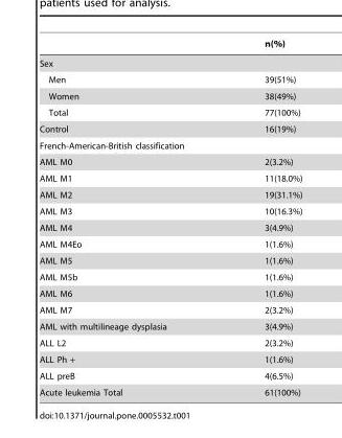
<table><thead><tr><td></td><td>n(%)</td></tr></thead><tbody><tr><td colspan="2">Sex</td></tr><tr><td>Men</td><td>39(51%)</td></tr><tr><td>Women</td><td>38(49%)</td></tr><tr><td>Total</td><td>77(100%)</td></tr><tr><td>Control</td><td>16(19%)</td></tr><tr><td colspan="2">French-American-British classification</td></tr><tr><td>AML M0</td><td>2(3.2%)</td></tr><tr><td>AML M1</td><td>11(18.0%)</td></tr><tr><td>AML M2</td><td>19(31.1%)</td></tr><tr><td>AML M3</td><td>10(16.3%)</td></tr><tr><td>AML M4</td><td>3(4.9%)</td></tr><tr><td>AML M4Eo</td><td>1(1.6%)</td></tr><tr><td>AML M5</td><td>1(1.6%)</td></tr><tr><td>AML M5b</td><td>1(1.6%)</td></tr><tr><td>AML M6</td><td>1(1.6%)</td></tr><tr><td>AML M7</td><td>2(3.2%)</td></tr><tr><td>AML with multilineage dysplasia</td><td>3(4.9%)</td></tr><tr><td>ALL L2</td><td>2(3.2%)</td></tr><tr><td>ALL Ph +</td><td>1(1.6%)</td></tr><tr><td>ALL preB</td><td>4(6.5%)</td></tr><tr><td>Acute leukemia Total</td><td>61(100%)</td></tr></tbody></table>